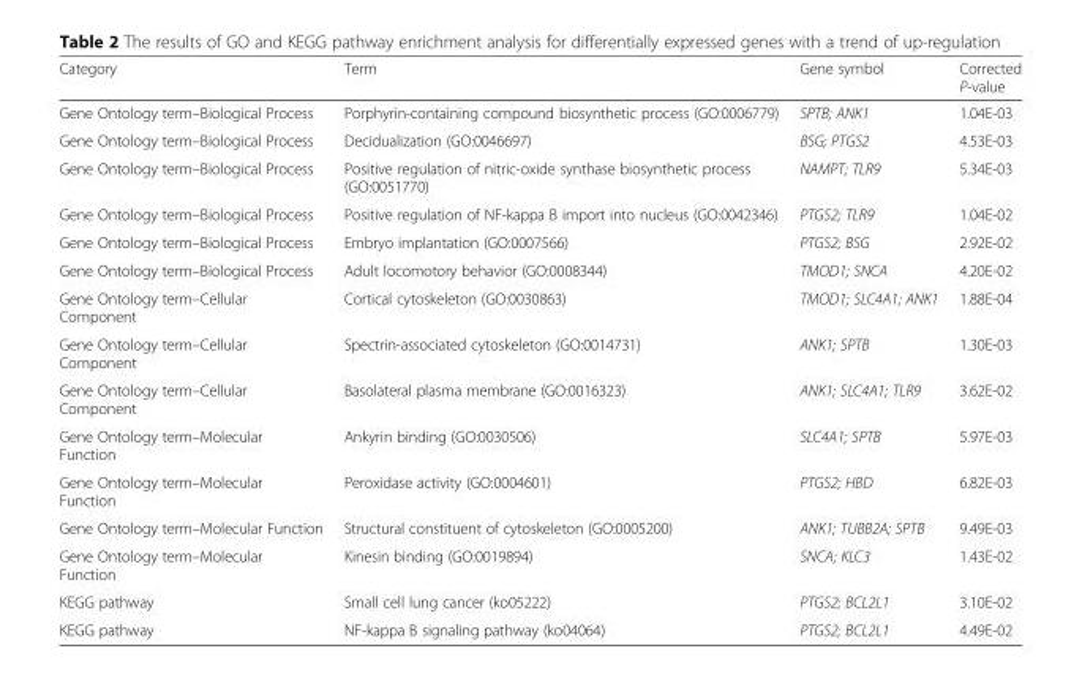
<table><thead><tr><td>Category</td><td>Term</td><td>Gene symbol</td><td>Corrected P-value</td></tr></thead><tbody><tr><td>Gene Ontology term–Biological Process</td><td>Porphyrin-containing compound biosynthetic process (GO:0006779)</td><td>SPTB; ANK1</td><td>1.04E-03</td></tr><tr><td>Gene Ontology term–Biological Process</td><td>Decidualization (GO:0046697)</td><td>BSG; PTGS2</td><td>4.53E-03</td></tr><tr><td>Gene Ontology term–Biological Process</td><td>Positive regulation of nitric-oxide synthase biosynthetic process (GO:0051770)</td><td>NAMPT; TLR9</td><td>5.34E-03</td></tr><tr><td>Gene Ontology term–Biological Process</td><td>Positive regulation of NF-kappa B import into nucleus (GO:0042346)</td><td>PTGS2; TLR9</td><td>1.04E-02</td></tr><tr><td>Gene Ontology term–Biological Process</td><td>Embryo implantation (GO:0007566)</td><td>PTGS2; BSG</td><td>2.92E-02</td></tr><tr><td>Gene Ontology term–Biological Process</td><td>Adult locomotory behavior (GO:0008344)</td><td>TMOD1; SNCA</td><td>4.20E-02</td></tr><tr><td>Gene Ontology term–Cellular Component</td><td>Cortical cytoskeleton (GO:0030863)</td><td>TMOD1; SLC4A1; ANK1</td><td>1.88E-04</td></tr><tr><td>Gene Ontology term–Cellular Component</td><td>Spectrin-associated cytoskeleton (GO:0014731)</td><td>ANK1; SPTB</td><td>1.30E-03</td></tr><tr><td>Gene Ontology term–Cellular Component</td><td>Basolateral plasma membrane (GO:0016323)</td><td>ANK1; SLC4A1; TLR9</td><td>3.62E-02</td></tr><tr><td>Gene Ontology term–Molecular Function</td><td>Ankyrin binding (GO:0030506)</td><td>SLC4A1; SPTB</td><td>5.97E-03</td></tr><tr><td>Gene Ontology term–Molecular Function</td><td>Peroxidase activity (GO:0004601)</td><td>PTGS2; HBD</td><td>6.82E-03</td></tr><tr><td>Gene Ontology term–Molecular Function</td><td>Structural constituent of cytoskeleton (GO:0005200)</td><td>ANK1; TUBB2A; SPTB</td><td>9.49E-03</td></tr><tr><td>Gene Ontology term–Molecular Function</td><td>Kinesin binding (GO:0019894)</td><td>SNCA; KLC3</td><td>1.43E-02</td></tr><tr><td>KEGG pathway</td><td>Small cell lung cancer (ko05222)</td><td>PTGS2; BCL2L1</td><td>3.10E-02</td></tr><tr><td>KEGG pathway</td><td>NF-kappa B signaling pathway (ko04064)</td><td>PTGS2; BCL2L1</td><td>4.49E-02</td></tr></tbody></table>